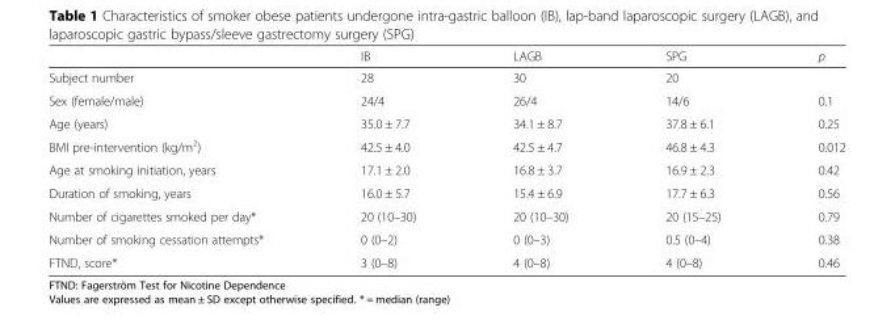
<table><thead><tr><td></td><td>IB</td><td>LAGB</td><td>SPG</td><td>p</td></tr></thead><tbody><tr><td>Subject number</td><td>28</td><td>30</td><td>20</td><td></td></tr><tr><td>Sex (female/male)</td><td>24/4</td><td>26/4</td><td>14/6</td><td>0.1</td></tr><tr><td>Age (years)</td><td>35.0 ± 7.7</td><td>34.1 ± 8.7</td><td>37.8 ± 6.1</td><td>0.25</td></tr><tr><td>BMI pre-intervention (kg/m<sup>2</sup>)</td><td>42.5 ± 4.0</td><td>42.5 ± 4.7</td><td>46.8 ± 4.3</td><td>0.012</td></tr><tr><td>Age at smoking initiation, years</td><td>17.1 ± 2.0</td><td>16.8 ± 3.7</td><td>16.9 ± 2.3</td><td>0.42</td></tr><tr><td>Duration of smoking, years</td><td>16.0 ± 5.7</td><td>15.4 ± 6.9</td><td>17.7 ± 6.3</td><td>0.56</td></tr><tr><td>Number of cigarettes smoked per day*</td><td>20 (10–30)</td><td>20 (10–30)</td><td>20 (15–25)</td><td>0.79</td></tr><tr><td>Number of smoking cessation attempts*</td><td>0 (0–2)</td><td>0 (0–3)</td><td>0.5 (0–4)</td><td>0.38</td></tr><tr><td>FTND, score*</td><td>3 (0–8)</td><td>4 (0–8)</td><td>4 (0–8)</td><td>0.46</td></tr></tbody></table>